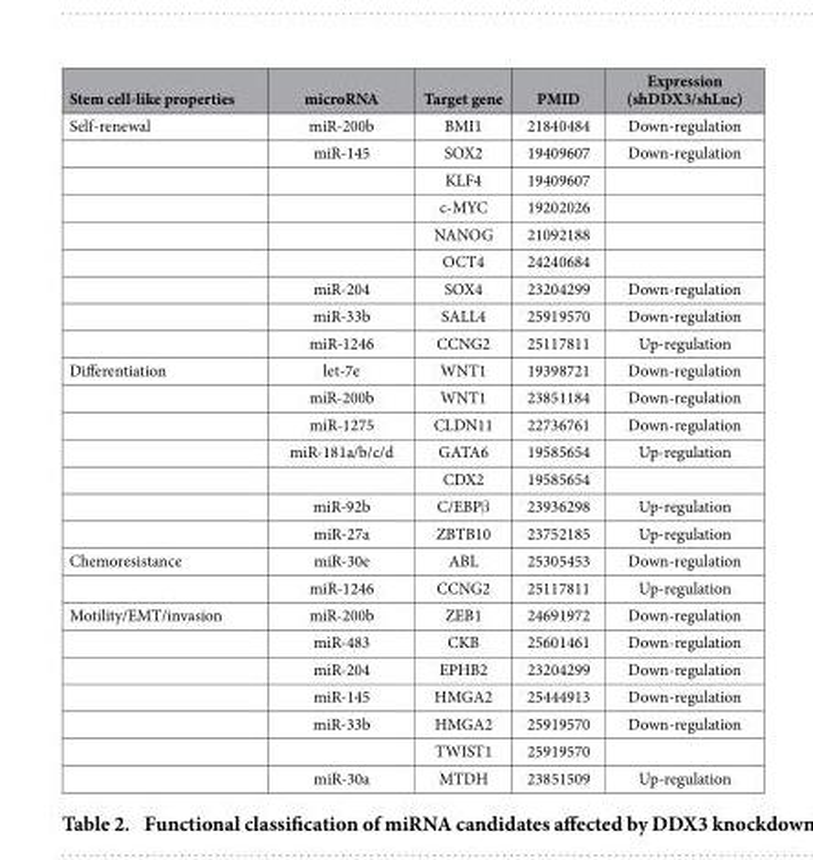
<table><thead><tr><td>Stem cell-like properties</td><td>microRNA</td><td>Target gene</td><td>PMID</td><td>Expression (shDDX3/shLuc)</td></tr></thead><tbody><tr><td rowspan="9">Self-renewal</td><td>miR-200b</td><td>BMI1</td><td>21840484</td><td>Down-regulation</td></tr><tr><td>miR-145</td><td>SOX2</td><td>19409607</td><td>Down-regulation</td></tr><tr><td></td><td>KLF4</td><td>19409607</td><td></td></tr><tr><td></td><td>c-MYC</td><td>19202026</td><td></td></tr><tr><td></td><td>NANOG</td><td>21092188</td><td></td></tr><tr><td></td><td>OCT4</td><td>24240684</td><td></td></tr><tr><td>miR-204</td><td>SOX4</td><td>23204299</td><td>Down-regulation</td></tr><tr><td>miR-33b</td><td>SALL4</td><td>25919570</td><td>Down-regulation</td></tr><tr><td>miR-1246</td><td>CCNG2</td><td>25117811</td><td>Up-regulation</td></tr><tr><td rowspan="7">Differentiation</td><td>let-7e</td><td>WNT1</td><td>19398721</td><td>Down-regulation</td></tr><tr><td>miR-200b</td><td>WNT1</td><td>23851184</td><td>Down-regulation</td></tr><tr><td>miR-1275</td><td>CLDN11</td><td>22736761</td><td>Down-regulation</td></tr><tr><td>miR-181a/b/c/d</td><td>GATA6</td><td>19585654</td><td>Up-regulation</td></tr><tr><td></td><td>CDX2</td><td>19585654</td><td></td></tr><tr><td>miR-92b</td><td>C/EBPβ</td><td>23936298</td><td>Up-regulation</td></tr><tr><td>miR-27a</td><td>ZBTB10</td><td>23752185</td><td>Up-regulation</td></tr><tr><td rowspan="2">Chemoresistance</td><td>miR-30e</td><td>ABL</td><td>25305453</td><td>Down-regulation</td></tr><tr><td>miR-1246</td><td>CCNG2</td><td>25117811</td><td>Up-regulation</td></tr><tr><td rowspan="7">Motility/EMT/invasion</td><td>miR-200b</td><td>ZEB1</td><td>24691972</td><td>Down-regulation</td></tr><tr><td>miR-483</td><td>CKB</td><td>25601461</td><td>Down-regulation</td></tr><tr><td>miR-204</td><td>EPHB2</td><td>23204299</td><td>Down-regulation</td></tr><tr><td>miR-145</td><td>HMGA2</td><td>25444913</td><td>Down-regulation</td></tr><tr><td>miR-33b</td><td>HMGA2</td><td>25919570</td><td>Down-regulation</td></tr><tr><td></td><td>TWIST1</td><td>25919570</td><td></td></tr><tr><td>miR-30a</td><td>MTDH</td><td>23851509</td><td>Up-regulation</td></tr></tbody></table>